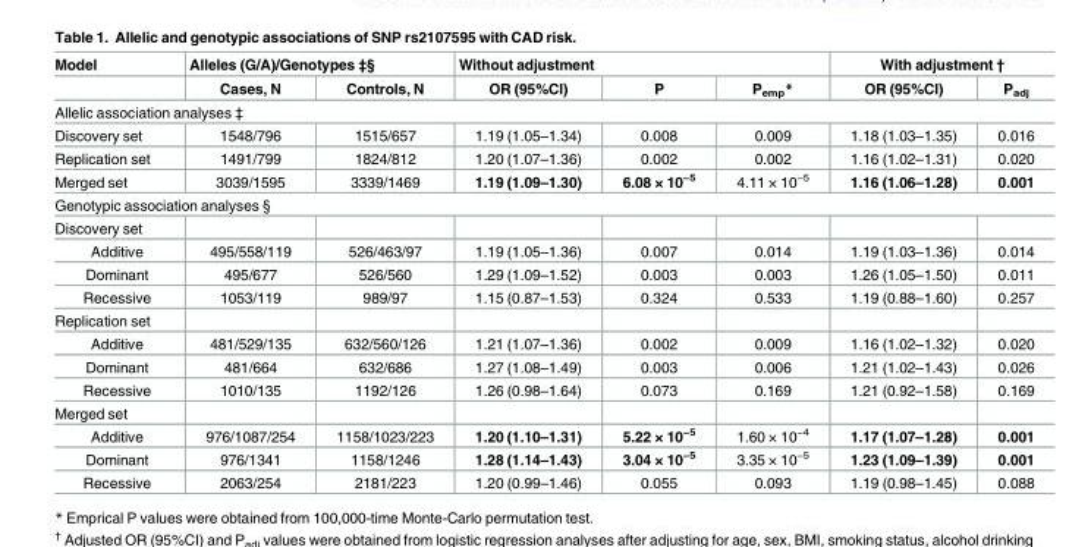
<table><thead><tr><td rowspan="2">Model</td><td colspan="2">Alleles (G/A)/Genotypes ‡§</td><td colspan="3">Without adjustment</td><td colspan="2">With adjustment †</td></tr><tr><td>Cases, N</td><td>Controls, N</td><td>OR (95%CI)</td><td>P</td><td>P<sub>emp</sub>*</td><td>OR (95%CI)</td><td>P<sub>adj</sub></td></tr></thead><tbody><tr><td colspan="8">Allelic association analyses ‡</td></tr><tr><td>Discovery set</td><td>1548/796</td><td>1515/657</td><td>1.19 (1.05–1.34)</td><td>0.008</td><td>0.009</td><td>1.18 (1.03–1.35)</td><td>0.016</td></tr><tr><td>Replication set</td><td>1491/799</td><td>1824/812</td><td>1.20 (1.07–1.36)</td><td>0.002</td><td>0.002</td><td>1.16 (1.02–1.31)</td><td>0.020</td></tr><tr><td>Merged set</td><td>3039/1595</td><td>3339/1469</td><td>1.19 (1.09–1.30)</td><td>6.08 × 10<sup>−5</sup></td><td>4.11 × 10<sup>−5</sup></td><td>1.16 (1.06–1.28)</td><td>0.001</td></tr><tr><td colspan="8">Genotypic association analyses §</td></tr><tr><td colspan="8">Discovery set</td></tr><tr><td>Additive</td><td>495/558/119</td><td>526/463/97</td><td>1.19 (1.05–1.36)</td><td>0.007</td><td>0.014</td><td>1.19 (1.03–1.36)</td><td>0.014</td></tr><tr><td>Dominant</td><td>495/677</td><td>526/560</td><td>1.29 (1.09–1.52)</td><td>0.003</td><td>0.003</td><td>1.26 (1.05–1.50)</td><td>0.011</td></tr><tr><td>Recessive</td><td>1053/119</td><td>989/97</td><td>1.15 (0.87–1.53)</td><td>0.324</td><td>0.533</td><td>1.19 (0.88–1.60)</td><td>0.257</td></tr><tr><td colspan="8">Replication set</td></tr><tr><td>Additive</td><td>481/529/135</td><td>632/560/126</td><td>1.21 (1.07–1.36)</td><td>0.002</td><td>0.009</td><td>1.16 (1.02–1.32)</td><td>0.020</td></tr><tr><td>Dominant</td><td>481/664</td><td>632/686</td><td>1.27 (1.08–1.49)</td><td>0.003</td><td>0.006</td><td>1.21 (1.02–1.43)</td><td>0.026</td></tr><tr><td>Recessive</td><td>1010/135</td><td>1192/126</td><td>1.26 (0.98–1.64)</td><td>0.073</td><td>0.169</td><td>1.21 (0.92–1.58)</td><td>0.169</td></tr><tr><td colspan="8">Merged set</td></tr><tr><td>Additive</td><td>976/1087/254</td><td>1158/1023/223</td><td>1.20 (1.10–1.31)</td><td>5.22 × 10<sup>−5</sup></td><td>1.60 × 10<sup>−4</sup></td><td>1.17 (1.07–1.28)</td><td>0.001</td></tr><tr><td>Dominant</td><td>976/1341</td><td>1158/1246</td><td>1.28 (1.14–1.43)</td><td>3.04 × 10<sup>−5</sup></td><td>3.35 × 10<sup>−5</sup></td><td>1.23 (1.09–1.39)</td><td>0.001</td></tr><tr><td>Recessive</td><td>2063/254</td><td>2181/223</td><td>1.20 (0.99–1.46)</td><td>0.055</td><td>0.093</td><td>1.19 (0.98–1.45)</td><td>0.088</td></tr></tbody></table>